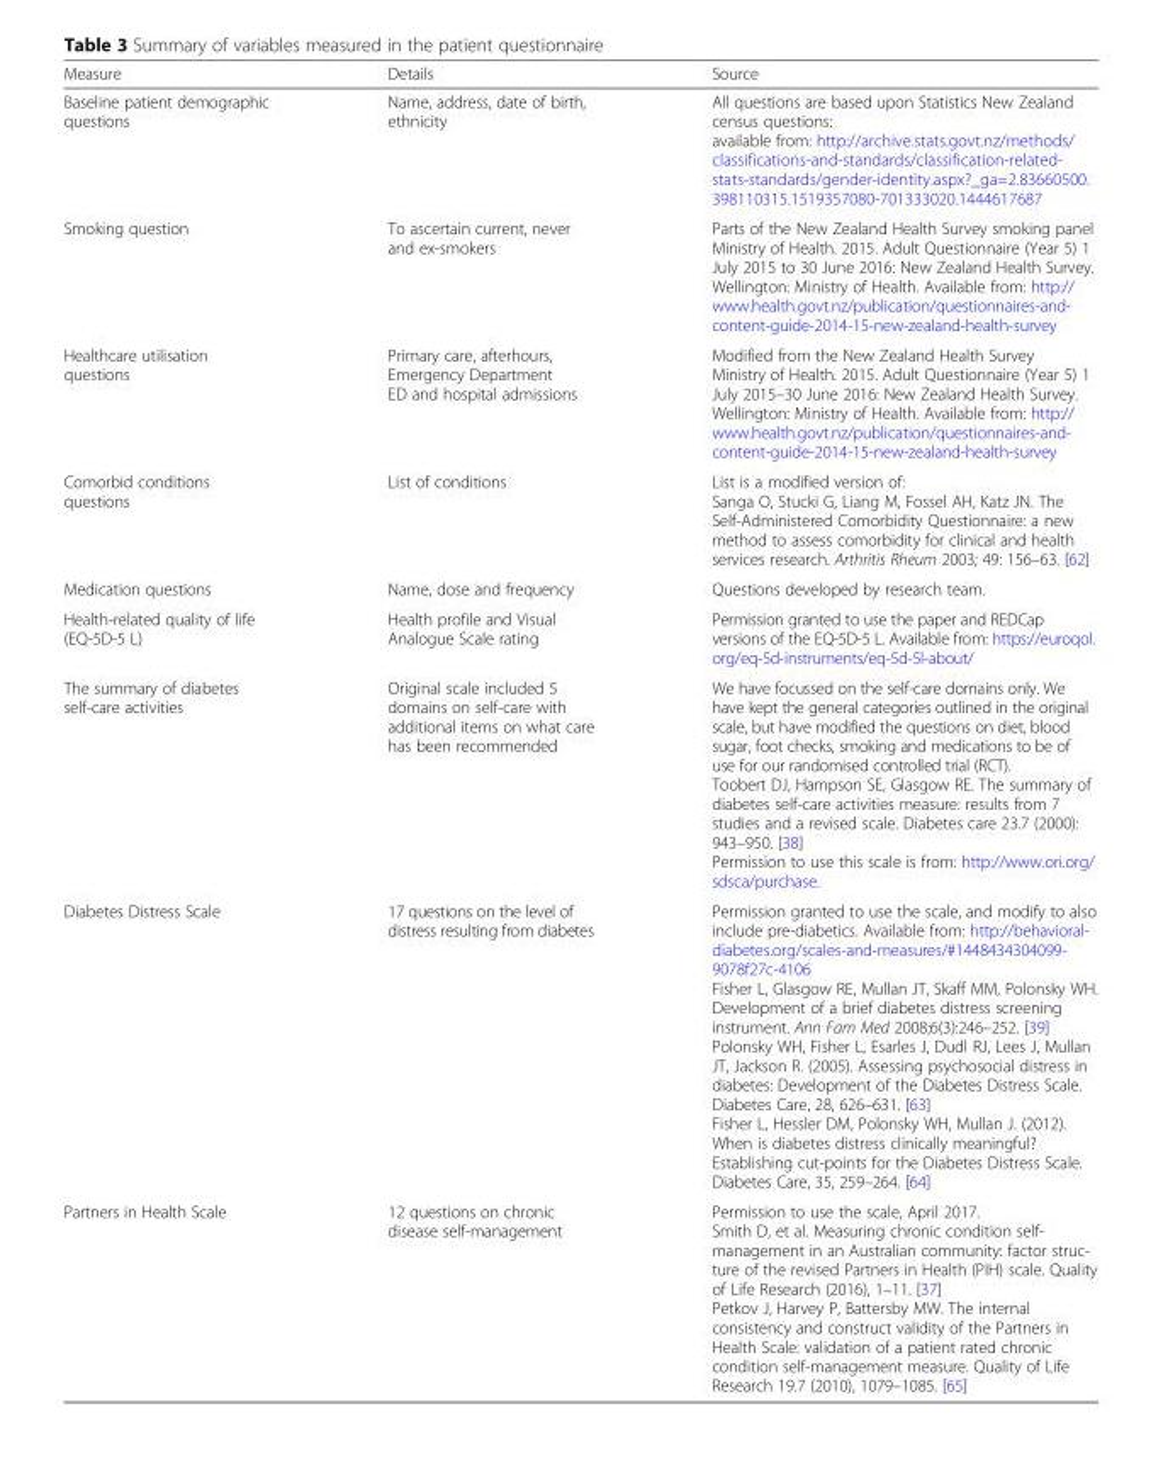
<table><thead><tr><td>Measure</td><td>Details</td><td>Source</td></tr></thead><tbody><tr><td>Baseline patient demographic questions</td><td>Name, address, date of birth, ethnicity</td><td>All questions are based upon Statistics New Zealand census questions: available from: http://archive.stats.govt.nz/methods/ classifications-and-standards/classification-related- stats-standards/gender-identity.aspx?_ga=2.83660500. 398110315.1519357080-701333020.1444617687</td></tr><tr><td>Smoking question</td><td>To ascertain current, never and ex-smokers</td><td>Parts of the New Zealand Health Survey smoking panel Ministry of Health. 2015. Adult Questionnaire (Year 5) 1 July 2015 to 30 June 2016: New Zealand Health Survey. Wellington: Ministry of Health. Available from: http:// www.health.govt.nz/publication/questionnaires-and- content-guide-2014-15-new-zealand-health-survey</td></tr><tr><td>Healthcare utilisation questions</td><td>Primary care, afterhours, Emergency Department ED and hospital admissions</td><td>Modified from the New Zealand Health Survey Ministry of Health. 2015. Adult Questionnaire (Year 5) 1 July 2015–30 June 2016: New Zealand Health Survey. Wellington: Ministry of Health. Available from: http:// www.health.govt.nz/publication/questionnaires-and- content-guide-2014-15-new-zealand-health-survey</td></tr><tr><td>Comorbid conditions questions</td><td>List of conditions</td><td>List is a modified version of: Sanga O, Stucki G, Liang M, Fossel AH, Katz JN. The Self-Administered Comorbidity Questionnaire: a new method to assess comorbidity for clinical and health services research. Arthritis Rheum 2003; 49: 156–63. [62]</td></tr><tr><td>Medication questions</td><td>Name, dose and frequency</td><td>Questions developed by research team.</td></tr><tr><td>Health-related quality of life (EQ-5D-5 L)</td><td>Health profile and Visual Analogue Scale rating</td><td>Permission granted to use the paper and REDCap versions of the EQ-5D-5 L. Available from: https://euroqol. org/eq-5d-instruments/eq-5d-5l-about/</td></tr><tr><td>The summary of diabetes self-care activities</td><td>Original scale included 5 domains on self-care with additional items on what care has been recommended</td><td>We have focussed on the self-care domains only. We have kept the general categories outlined in the original scale, but have modified the questions on diet, blood sugar, foot checks, smoking and medications to be of use for our randomised controlled trial (RCT). Toobert DJ, Hampson SE, Glasgow RE. The summary of diabetes self-care activities measure: results from 7 studies and a revised scale. Diabetes care 23.7 (2000): 943–950. [38] Permission to use this scale is from: http://www.ori.org/ sdsca/purchase.</td></tr><tr><td>Diabetes Distress Scale</td><td>17 questions on the level of distress resulting from diabetes</td><td>Permission granted to use the scale, and modify to also include pre-diabetics. Available from: http://behavioral- diabetes.org/scales-and-measures/#1448434304099- 9078f27c-4106 Fisher L, Glasgow RE, Mullan JT, Skaff MM, Polonsky WH. Development of a brief diabetes distress screening instrument. Ann Fam Med 2008;6(3):246–252. [39] Polonsky WH, Fisher L, Esarles J, Dudl RJ, Lees J, Mullan JT, Jackson R. (2005). Assessing psychosocial distress in diabetes: Development of the Diabetes Distress Scale. Diabetes Care, 28, 626–631. [63] Fisher L, Hessler DM, Polonsky WH, Mullan J. (2012). When is diabetes distress clinically meaningful? Establishing cut-points for the Diabetes Distress Scale. Diabetes Care, 35, 259–264. [64]</td></tr><tr><td>Partners in Health Scale</td><td>12 questions on chronic disease self-management</td><td>Permission to use the scale, April 2017. Smith D, et al. Measuring chronic condition self- management in an Australian community: factor struc- ture of the revised Partners in Health (PIH) scale. Quality of Life Research (2016), 1–11. [37] Petkov J, Harvey P, Battersby MW. The internal consistency and construct validity of the Partners in Health Scale: validation of a patient rated chronic condition self-management measure. Quality of Life Research 19.7 (2010), 1079–1085. [65]</td></tr></tbody></table>